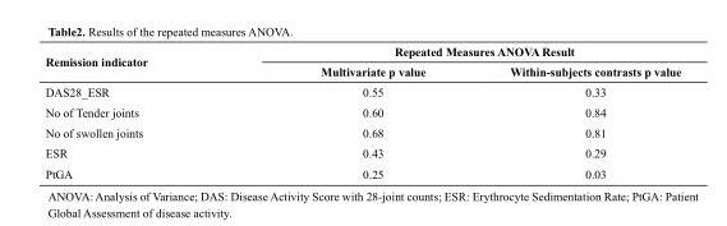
<table><thead><tr><td rowspan="2">Remission indicator</td><td colspan="2">Repeated Measures ANOVA Result</td></tr><tr><td>Multivariate p value</td><td>Within-subjects contrasts p value</td></tr></thead><tbody><tr><td>DAS28_ESR</td><td>0.55</td><td>0.33</td></tr><tr><td>No of Tender joints</td><td>0.60</td><td>0.84</td></tr><tr><td>No of swollen joints</td><td>0.68</td><td>0.81</td></tr><tr><td>ESR</td><td>0.43</td><td>0.29</td></tr><tr><td>PtGA</td><td>0.25</td><td>0.03</td></tr></tbody></table>